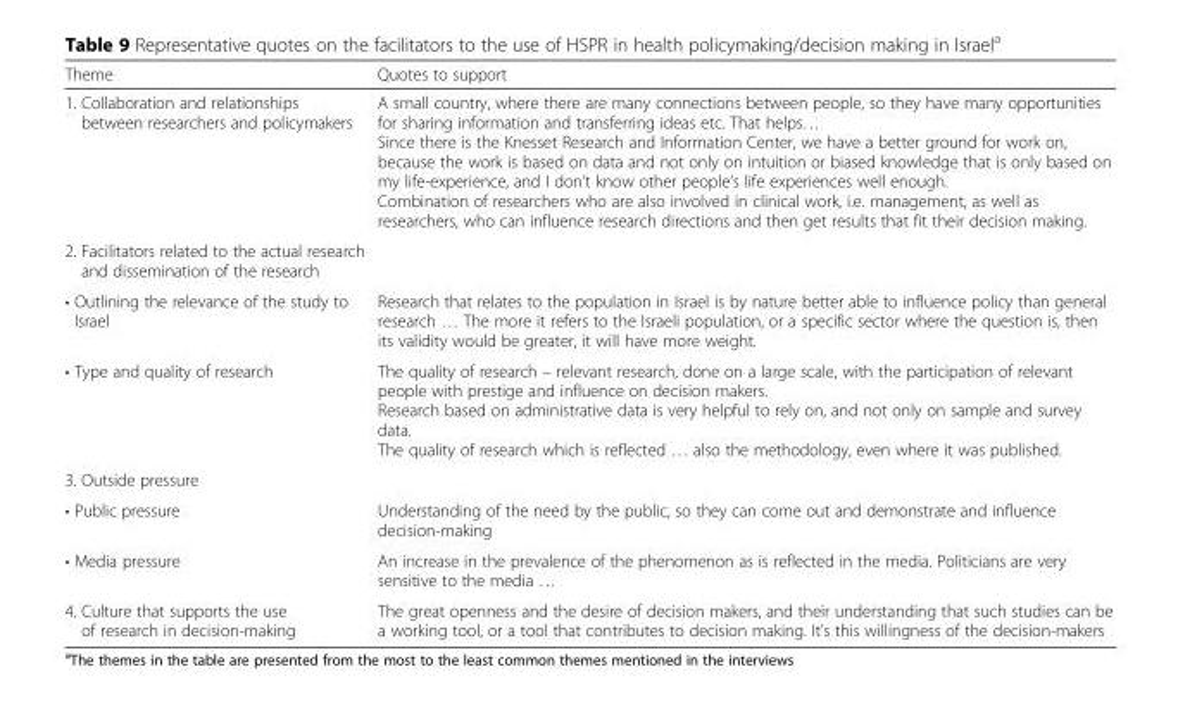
<table><thead><tr><td>Theme</td><td>Quotes to support</td></tr></thead><tbody><tr><td>1. Collaboration and relationships between researchers and policymakers</td><td>A small country, where there are many connections between people, so they have many opportunities for sharing information and transferring ideas etc. That helps… Since there is the Knesset Research and Information Center, we have a better ground for work on, because the work is based on data and not only on intuition or biased knowledge that is only based on my life-experience, and I don’t know other people’s life experiences well enough. Combination of researchers who are also involved in clinical work, i.e. management, as well as researchers, who can influence research directions and then get results that fit their decision making.</td></tr><tr><td colspan="2">2. Facilitators related to the actual research and dissemination of the research</td></tr><tr><td>• Outlining the relevance of the study to Israel</td><td>Research that relates to the population in Israel is by nature better able to influence policy than general research … The more it refers to the Israeli population, or a specific sector where the question is, then its validity would be greater, it will have more weight.</td></tr><tr><td>• Type and quality of research</td><td>The quality of research – relevant research, done on a large scale, with the participation of relevant people with prestige and influence on decision makers. Research based on administrative data is very helpful to rely on, and not only on sample and survey data. The quality of research which is reflected … also the methodology, even where it was published.</td></tr><tr><td colspan="2">3. Outside pressure</td></tr><tr><td>• Public pressure</td><td>Understanding of the need by the public, so they can come out and demonstrate and influence decision-making</td></tr><tr><td>• Media pressure</td><td>An increase in the prevalence of the phenomenon as is reflected in the media. Politicians are very sensitive to the media …</td></tr><tr><td>4. Culture that supports the use of research in decision-making</td><td>The great openness and the desire of decision makers, and their understanding that such studies can be a working tool, or a tool that contributes to decision making. It’s this willingness of the decision-makers</td></tr></tbody></table>